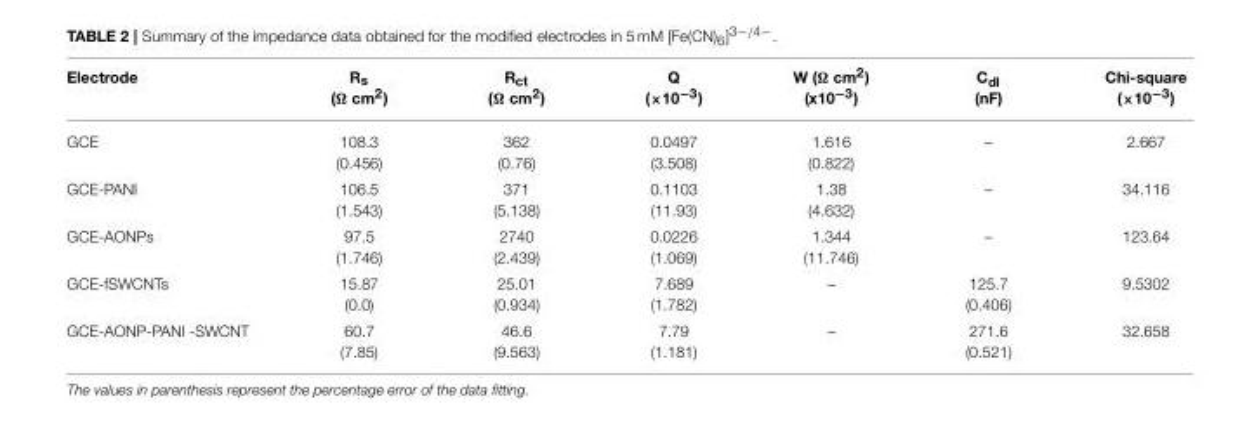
<table><thead><tr><td>Electrode</td><td>R<sub>s</sub> (Ω cm<sup>2</sup>)</td><td>R<sub>ct</sub> (Ω cm<sup>2</sup>)</td><td>Q (×10<sup>−3</sup>)</td><td>W (Ω cm<sup>2</sup>) (x10<sup>−3</sup>)</td><td>C<sub>dl</sub> (nF)</td><td>Chi-square (×10<sup>−3</sup>)</td></tr></thead><tbody><tr><td>GCE</td><td>108.3 (0.456)</td><td>362 (0.76)</td><td>0.0497 (3.508)</td><td>1.616 (0.822)</td><td>–</td><td>2.667</td></tr><tr><td>GCE-PANI</td><td>106.5 (1.543)</td><td>371 (5.138)</td><td>0.1103 (11.93)</td><td>1.38 (4.632)</td><td>–</td><td>34.116</td></tr><tr><td>GCE-AONPs</td><td>97.5 (1.746)</td><td>2740 (2.439)</td><td>0.0226 (1.069)</td><td>1.344 (11.746)</td><td>–</td><td>123.64</td></tr><tr><td>GCE-fSWCNTs</td><td>15.87 (0.0)</td><td>25.01 (0.934)</td><td>7.689 (1.782)</td><td>–</td><td>125.7 (0.406)</td><td>9.5302</td></tr><tr><td>GCE-AONP-PANI -SWCNT</td><td>60.7 (7.85)</td><td>46.6 (9.563)</td><td>7.79 (1.181)</td><td>–</td><td>271.6 (0.521)</td><td>32.658</td></tr></tbody></table>